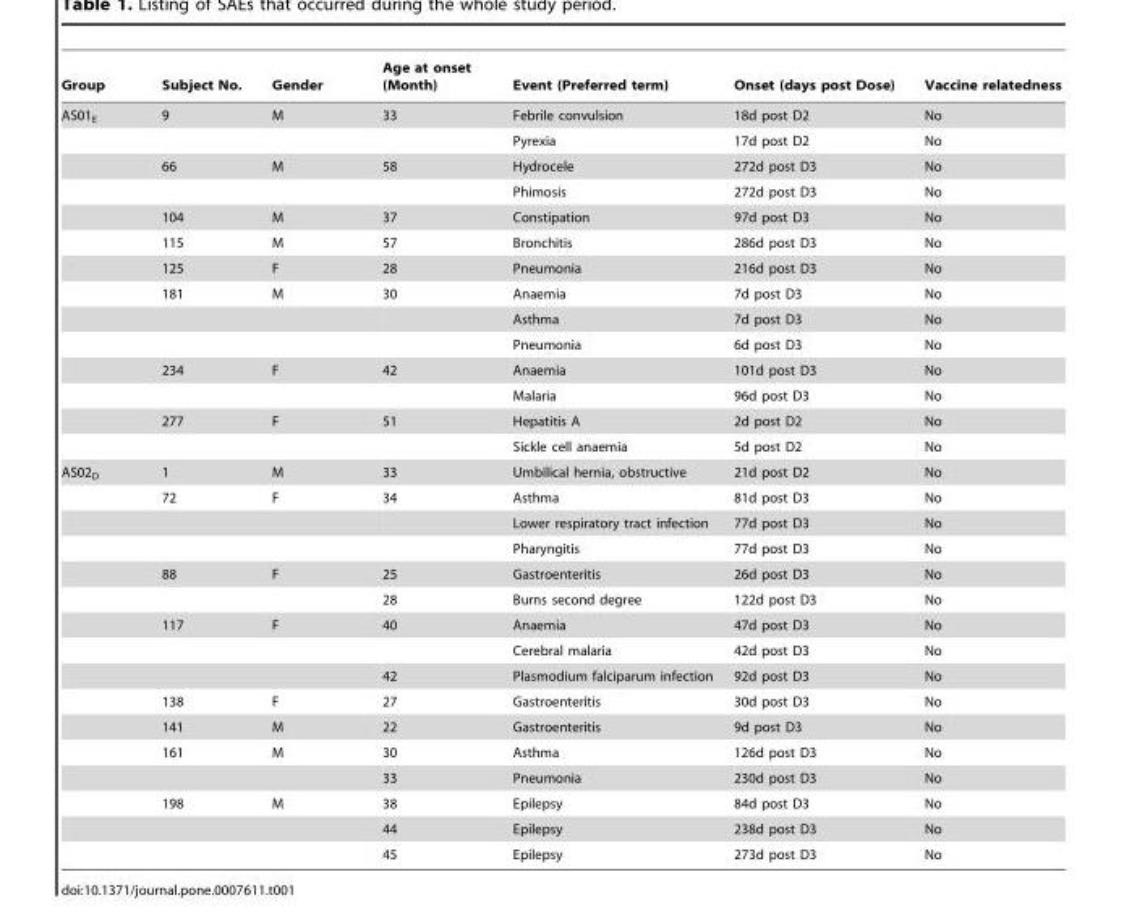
<table><thead><tr><td>Group</td><td>Subject No.</td><td>Gender</td><td>Age at onset (Month)</td><td>Event (Preferred term)</td><td>Onset (days post Dose)</td><td>Vaccine relatedness</td></tr></thead><tbody><tr><td rowspan="14">AS01<sub>E</sub></td><td>9</td><td>M</td><td>33</td><td>Febrile convulsion</td><td>18d post D2</td><td>No</td></tr><tr><td></td><td></td><td></td><td>Pyrexia</td><td>17d post D2</td><td>No</td></tr><tr><td>66</td><td>M</td><td>58</td><td>Hydrocele</td><td>272d post D3</td><td>No</td></tr><tr><td></td><td></td><td></td><td>Phimosis</td><td>272d post D3</td><td>No</td></tr><tr><td>104</td><td>M</td><td>37</td><td>Constipation</td><td>97d post D3</td><td>No</td></tr><tr><td>115</td><td>M</td><td>57</td><td>Bronchitis</td><td>286d post D3</td><td>No</td></tr><tr><td>125</td><td>F</td><td>28</td><td>Pneumonia</td><td>216d post D3</td><td>No</td></tr><tr><td>181</td><td>M</td><td>30</td><td>Anaemia</td><td>7d post D3</td><td>No</td></tr><tr><td></td><td></td><td></td><td>Asthma</td><td>7d post D3</td><td>No</td></tr><tr><td></td><td></td><td></td><td>Pneumonia</td><td>6d post D3</td><td>No</td></tr><tr><td>234</td><td>F</td><td>42</td><td>Anaemia</td><td>101d post D3</td><td>No</td></tr><tr><td></td><td></td><td></td><td>Malaria</td><td>96d post D3</td><td>No</td></tr><tr><td>277</td><td>F</td><td>51</td><td>Hepatitis A</td><td>2d post D2</td><td>No</td></tr><tr><td></td><td></td><td></td><td>Sickle cell anaemia</td><td>5d post D2</td><td>No</td></tr><tr><td rowspan="16">AS02<sub>D</sub></td><td>1</td><td>M</td><td>33</td><td>Umbilical hernia, obstructive</td><td>21d post D2</td><td>No</td></tr><tr><td>72</td><td>F</td><td>34</td><td>Asthma</td><td>81d post D3</td><td>No</td></tr><tr><td></td><td></td><td></td><td>Lower respiratory tract infection</td><td>77d post D3</td><td>No</td></tr><tr><td></td><td></td><td></td><td>Pharyngitis</td><td>77d post D3</td><td>No</td></tr><tr><td>88</td><td>F</td><td>25</td><td>Gastroenteritis</td><td>26d post D3</td><td>No</td></tr><tr><td></td><td></td><td>28</td><td>Burns second degree</td><td>122d post D3</td><td>No</td></tr><tr><td>117</td><td>F</td><td>40</td><td>Anaemia</td><td>47d post D3</td><td>No</td></tr><tr><td></td><td></td><td></td><td>Cerebral malaria</td><td>42d post D3</td><td>No</td></tr><tr><td></td><td></td><td>42</td><td>Plasmodium falciparum infection</td><td>92d post D3</td><td>No</td></tr><tr><td>138</td><td>F</td><td>27</td><td>Gastroenteritis</td><td>30d post D3</td><td>No</td></tr><tr><td>141</td><td>M</td><td>22</td><td>Gastroenteritis</td><td>9d post D3</td><td>No</td></tr><tr><td>161</td><td>M</td><td>30</td><td>Asthma</td><td>126d post D3</td><td>No</td></tr><tr><td></td><td></td><td>33</td><td>Pneumonia</td><td>230d post D3</td><td>No</td></tr><tr><td>198</td><td>M</td><td>38</td><td>Epilepsy</td><td>84d post D3</td><td>No</td></tr><tr><td></td><td></td><td>44</td><td>Epilepsy</td><td>238d post D3</td><td>No</td></tr><tr><td></td><td></td><td>45</td><td>Epilepsy</td><td>273d post D3</td><td>No</td></tr></tbody></table>